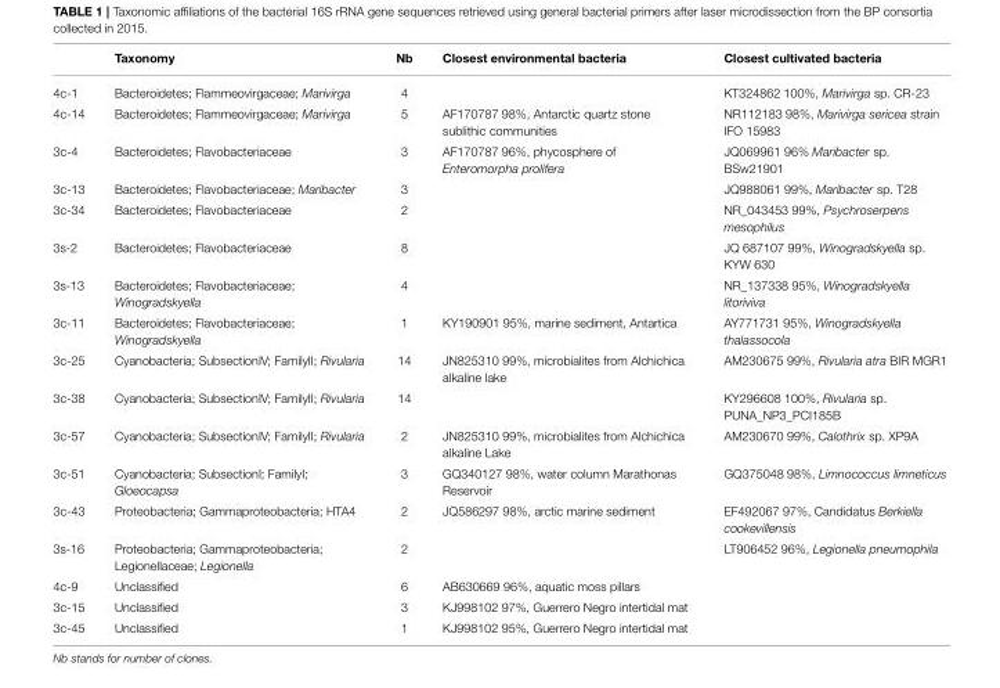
<table><thead><tr><td></td><td>Taxonomy</td><td>Nb</td><td>Closest environmental bacteria</td><td>Closest cultivated bacteria</td></tr></thead><tbody><tr><td>4c-1</td><td>Bacteroidetes; Flammeovirgaceae; Marivirga</td><td>4</td><td></td><td>KT324862 100%, Marivirga sp. CR-23</td></tr><tr><td>4c-14</td><td>Bacteroidetes; Flammeovirgaceae; Marivirga</td><td>5</td><td>AF170787 98%, Antarctic quartz stone sublithic communities</td><td>NR112183 98%, Marivirga sericea strain IFO 15983</td></tr><tr><td>3c-4</td><td>Bacteroidetes; Flavobacteriaceae</td><td>3</td><td>AF170787 96%, phycosphere of Enteromorpha prolifera</td><td>JQ069961 96% Maribacter sp. BSw21901</td></tr><tr><td>3c-13</td><td>Bacteroidetes; Flavobacteriaceae; Maribacter</td><td>3</td><td></td><td>JQ988061 99%, Maribacter sp. T28</td></tr><tr><td>3c-34</td><td>Bacteroidetes; Flavobacteriaceae</td><td>2</td><td></td><td>NR_043453 99%, Psychroserpens mesophilus</td></tr><tr><td>3s-2</td><td>Bacteroidetes; Flavobacteriaceae</td><td>8</td><td></td><td>JQ 687107 99%, Winogradskyella sp. KYW 630</td></tr><tr><td>3s-13</td><td>Bacteroidetes; Flavobacteriaceae; Winogradskyella</td><td>4</td><td></td><td>NR_137338 95%, Winogradskyella litoriviva</td></tr><tr><td>3c-11</td><td>Bacteroidetes; Flavobacteriaceae; Winogradskyella</td><td>1</td><td>KY190901 95%, marine sediment, Antartica</td><td>AY771731 95%, Winogradskyella thalassocola</td></tr><tr><td>3c-25</td><td>Cyanobacteria; SubsectionIV; FamilyII; Rivularia</td><td>14</td><td>JN825310 99%, microbialites from Alchichica alkaline lake</td><td>AM230675 99%, Rivularia atra BIR MGR1</td></tr><tr><td>3c-38</td><td>Cyanobacteria; SubsectionIV; FamilyII; Rivularia</td><td>14</td><td></td><td>KY296608 100%, Rivularia sp. PUNA_NP3_PCI185B</td></tr><tr><td>3c-57</td><td>Cyanobacteria; SubsectionIV; FamilyII; Rivularia</td><td>2</td><td>JN825310 99%, microbialites from Alchichica alkaline Lake</td><td>AM230670 99%, Calothrix sp. XP9A</td></tr><tr><td>3c-51</td><td>Cyanobacteria; SubsectionI; FamilyI; Gloeocapsa</td><td>3</td><td>GQ340127 98%, water column Marathonas Reservoir</td><td>GQ375048 98%, Limnococcus limneticus</td></tr><tr><td>3c-43</td><td>Proteobacteria; Gammaproteobacteria; HTA4</td><td>2</td><td>JQ586297 98%, arctic marine sediment</td><td>EF492067 97%, Candidatus Berkiella cookevillensis</td></tr><tr><td>3s-16</td><td>Proteobacteria; Gammaproteobacteria; Legionellaceae; Legionella</td><td>2</td><td></td><td>LT906452 96%, Legionella pneumophila</td></tr><tr><td>4c-9</td><td>Unclassified</td><td>6</td><td>AB630669 96%, aquatic moss pillars</td><td></td></tr><tr><td>3c-15</td><td>Unclassified</td><td>3</td><td>KJ998102 97%, Guerrero Negro intertidal mat</td><td></td></tr><tr><td>3c-45</td><td>Unclassified</td><td>1</td><td>KJ998102 95%, Guerrero Negro intertidal mat</td><td></td></tr></tbody></table>